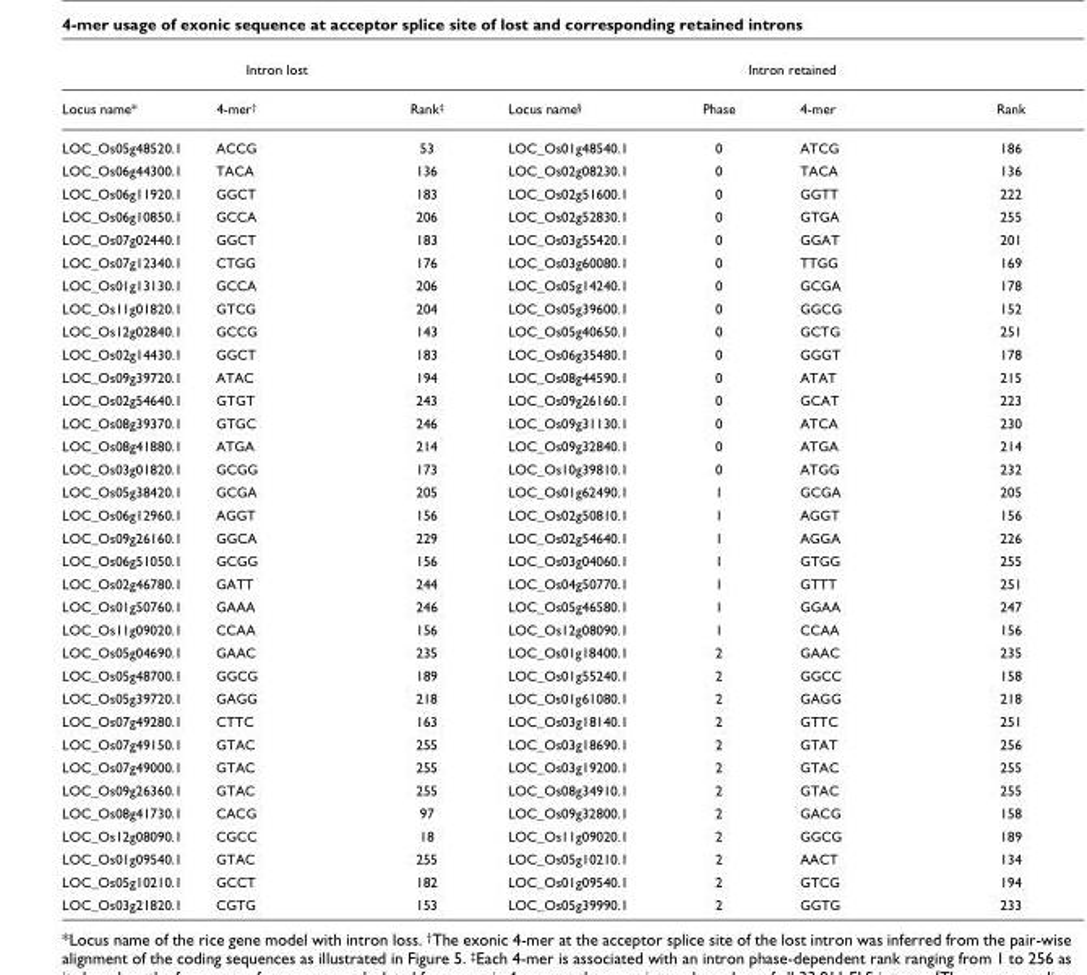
<table><thead><tr><td colspan="3">Intron lost</td><td colspan="4">Intron retained</td></tr><tr><td>Locus name*</td><td>4-mer†</td><td>Rank‡</td><td>Locus name§</td><td>Phase</td><td>4-mer</td><td>Rank</td></tr></thead><tbody><tr><td>LOC_Os05g48520.1</td><td>ACCG</td><td>53</td><td>LOC_Os01g48540.1</td><td>0</td><td>ATCG</td><td>186</td></tr><tr><td>LOC_Os06g44300.1</td><td>TACA</td><td>136</td><td>LOC_Os02g08230.1</td><td>0</td><td>TACA</td><td>136</td></tr><tr><td>LOC_Os06g11920.1</td><td>GGCT</td><td>183</td><td>LOC_Os02g51600.1</td><td>0</td><td>GGTT</td><td>222</td></tr><tr><td>LOC_Os06g10850.1</td><td>GCCA</td><td>206</td><td>LOC_Os02g52830.1</td><td>0</td><td>GTGA</td><td>255</td></tr><tr><td>LOC_Os07g02440.1</td><td>GGCT</td><td>183</td><td>LOC_Os03g55420.1</td><td>0</td><td>GGAT</td><td>201</td></tr><tr><td>LOC_Os07g12340.1</td><td>CTGG</td><td>176</td><td>LOC_Os03g60080.1</td><td>0</td><td>TTGG</td><td>169</td></tr><tr><td>LOC_Os01g13130.1</td><td>GCCA</td><td>206</td><td>LOC_Os05g14240.1</td><td>0</td><td>GCGA</td><td>178</td></tr><tr><td>LOC_Os11g01820.1</td><td>GTCG</td><td>204</td><td>LOC_Os05g39600.1</td><td>0</td><td>GGCG</td><td>152</td></tr><tr><td>LOC_Os12g02840.1</td><td>GCCG</td><td>143</td><td>LOC_Os05g40650.1</td><td>0</td><td>GCTG</td><td>251</td></tr><tr><td>LOC_Os02g14430.1</td><td>GGCT</td><td>183</td><td>LOC_Os06g35480.1</td><td>0</td><td>GGGT</td><td>178</td></tr><tr><td>LOC_Os09g39720.1</td><td>ATAC</td><td>194</td><td>LOC_Os08g44590.1</td><td>0</td><td>ATAT</td><td>215</td></tr><tr><td>LOC_Os02g54640.1</td><td>GTGT</td><td>243</td><td>LOC_Os09g26160.1</td><td>0</td><td>GCAT</td><td>223</td></tr><tr><td>LOC_Os08g39370.1</td><td>GTGC</td><td>246</td><td>LOC_Os09g31130.1</td><td>0</td><td>ATCA</td><td>230</td></tr><tr><td>LOC_Os08g41880.1</td><td>ATGA</td><td>214</td><td>LOC_Os09g32840.1</td><td>0</td><td>ATGA</td><td>214</td></tr><tr><td>LOC_Os03g01820.1</td><td>GCGG</td><td>173</td><td>LOC_Os10g39810.1</td><td>0</td><td>ATGG</td><td>232</td></tr><tr><td>LOC_Os05g38420.1</td><td>GCGA</td><td>205</td><td>LOC_Os01g62490.1</td><td>1</td><td>GCGA</td><td>205</td></tr><tr><td>LOC_Os06g12960.1</td><td>AGGT</td><td>156</td><td>LOC_Os02g50810.1</td><td>1</td><td>AGGT</td><td>156</td></tr><tr><td>LOC_Os09g26160.1</td><td>GGCA</td><td>229</td><td>LOC_Os02g54640.1</td><td>1</td><td>AGGA</td><td>226</td></tr><tr><td>LOC_Os06g51050.1</td><td>GCGG</td><td>156</td><td>LOC_Os03g04060.1</td><td>1</td><td>GTGG</td><td>255</td></tr><tr><td>LOC_Os02g46780.1</td><td>GATT</td><td>244</td><td>LOC_Os04g50770.1</td><td>1</td><td>GTTT</td><td>251</td></tr><tr><td>LOC_Os01g50760.1</td><td>GAAA</td><td>246</td><td>LOC_Os05g46580.1</td><td>1</td><td>GGAA</td><td>247</td></tr><tr><td>LOC_Os11g09020.1</td><td>CCAA</td><td>156</td><td>LOC_Os12g08090.1</td><td>1</td><td>CCAA</td><td>156</td></tr><tr><td>LOC_Os05g04690.1</td><td>GAAC</td><td>235</td><td>LOC_Os01g18400.1</td><td>2</td><td>GAAC</td><td>235</td></tr><tr><td>LOC_Os05g48700.1</td><td>GGCG</td><td>189</td><td>LOC_Os01g55240.1</td><td>2</td><td>GGCC</td><td>158</td></tr><tr><td>LOC_Os05g39720.1</td><td>GAGG</td><td>218</td><td>LOC_Os01g61080.1</td><td>2</td><td>GAGG</td><td>218</td></tr><tr><td>LOC_Os07g49280.1</td><td>CTTC</td><td>163</td><td>LOC_Os03g18140.1</td><td>2</td><td>GTTC</td><td>251</td></tr><tr><td>LOC_Os07g49150.1</td><td>GTAC</td><td>255</td><td>LOC_Os03g18690.1</td><td>2</td><td>GTAT</td><td>256</td></tr><tr><td>LOC_Os07g49000.1</td><td>GTAC</td><td>255</td><td>LOC_Os03g19200.1</td><td>2</td><td>GTAC</td><td>255</td></tr><tr><td>LOC_Os09g26360.1</td><td>GTAC</td><td>255</td><td>LOC_Os08g34910.1</td><td>2</td><td>GTAC</td><td>255</td></tr><tr><td>LOC_Os08g41730.1</td><td>CACG</td><td>97</td><td>LOC_Os09g32800.1</td><td>2</td><td>GACG</td><td>158</td></tr><tr><td>LOC_Os12g08090.1</td><td>CGCC</td><td>18</td><td>LOC_Os11g09020.1</td><td>2</td><td>GGCG</td><td>189</td></tr><tr><td>LOC_Os01g09540.1</td><td>GTAC</td><td>255</td><td>LOC_Os05g10210.1</td><td>2</td><td>AACT</td><td>134</td></tr><tr><td>LOC_Os05g10210.1</td><td>GCCT</td><td>182</td><td>LOC_Os01g09540.1</td><td>2</td><td>GTCG</td><td>194</td></tr><tr><td>LOC_Os03g21820.1</td><td>CGTG</td><td>153</td><td>LOC_Os05g39990.1</td><td>2</td><td>GGTG</td><td>233</td></tr></tbody></table>